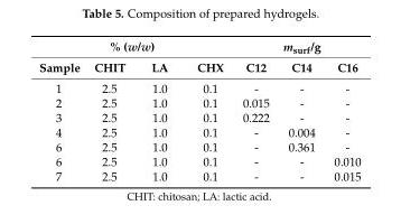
<table><thead><tr><td colspan="4">% (w/w)</td><td colspan="3">m<sub>surf</sub>/g</td></tr><tr><td>Sample</td><td>CHIT</td><td>LA</td><td>CHX</td><td>C12</td><td>C14</td><td>C16</td></tr></thead><tbody><tr><td>1</td><td>2.5</td><td>1.0</td><td>0.1</td><td>-</td><td>-</td><td>-</td></tr><tr><td>2</td><td>2.5</td><td>1.0</td><td>0.1</td><td>0.015</td><td>-</td><td>-</td></tr><tr><td>3</td><td>2.5</td><td>1.0</td><td>0.1</td><td>0.222</td><td>-</td><td>-</td></tr><tr><td>4</td><td>2.5</td><td>1.0</td><td>0.1</td><td>-</td><td>0.004</td><td>-</td></tr><tr><td>6</td><td>2.5</td><td>1.0</td><td>0.1</td><td>-</td><td>0.361</td><td>-</td></tr><tr><td>6</td><td>2.5</td><td>1.0</td><td>0.1</td><td>-</td><td>-</td><td>0.010</td></tr><tr><td>7</td><td>2.5</td><td>1.0</td><td>0.1</td><td>-</td><td>-</td><td>0.015</td></tr></tbody></table>